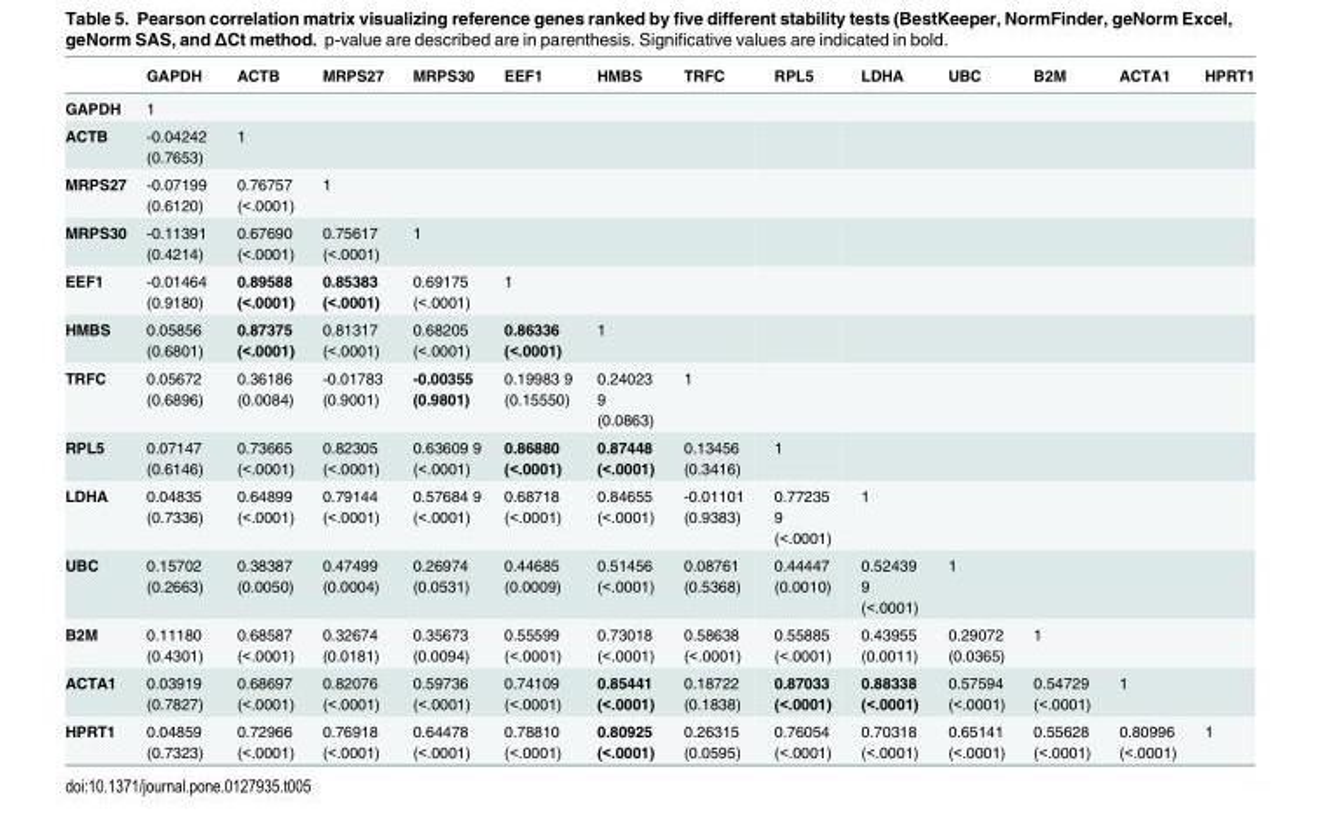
<table><thead><tr><td></td><td>GAPDH</td><td>ACTB</td><td>MRPS27</td><td>MRPS30</td><td>EEF1</td><td>HMBS</td><td>TRFC</td><td>RPL5</td><td>LDHA</td><td>UBC</td><td>B2M</td><td>ACTA1</td><td>HPRT1</td></tr></thead><tbody><tr><td>GAPDH</td><td>1</td><td></td><td></td><td></td><td></td><td></td><td></td><td></td><td></td><td></td><td></td><td></td><td></td></tr><tr><td>ACTB</td><td>-0.04242 (0.7653)</td><td>1</td><td></td><td></td><td></td><td></td><td></td><td></td><td></td><td></td><td></td><td></td><td></td></tr><tr><td>MRPS27</td><td>-0.07199 (0.6120)</td><td>0.76757 (&lt;.0001)</td><td>1</td><td></td><td></td><td></td><td></td><td></td><td></td><td></td><td></td><td></td><td></td></tr><tr><td>MRPS30</td><td>-0.11391 (0.4214)</td><td>0.67690 (&lt;.0001)</td><td>0.75617 (&lt;.0001)</td><td>1</td><td></td><td></td><td></td><td></td><td></td><td></td><td></td><td></td><td></td></tr><tr><td>EEF1</td><td>-0.01464 (0.9180)</td><td>0.89588 (&lt;.0001)</td><td>0.85383 (&lt;.0001)</td><td>0.69175 (&lt;.0001)</td><td>1</td><td></td><td></td><td></td><td></td><td></td><td></td><td></td><td></td></tr><tr><td>HMBS</td><td>0.05856 (0.6801)</td><td>0.87375 (&lt;.0001)</td><td>0.81317 (&lt;.0001)</td><td>0.68205 (&lt;.0001)</td><td>0.86336 (&lt;.0001)</td><td>1</td><td></td><td></td><td></td><td></td><td></td><td></td><td></td></tr><tr><td>TRFC</td><td>0.05672 (0.6896)</td><td>0.36186 (0.0084)</td><td>-0.01783 (0.9001)</td><td>-0.00355 (0.9801)</td><td>0.19983 9 (0.15550)</td><td>0.24023 9 (0.0863)</td><td>1</td><td></td><td></td><td></td><td></td><td></td><td></td></tr><tr><td>RPL5</td><td>0.07147 (0.6146)</td><td>0.73665 (&lt;.0001)</td><td>0.82305 (&lt;.0001)</td><td>0.63609 9 (&lt;.0001)</td><td>0.86880 (&lt;.0001)</td><td>0.87448 (&lt;.0001)</td><td>0.13456 (0.3416)</td><td>1</td><td></td><td></td><td></td><td></td><td></td></tr><tr><td>LDHA</td><td>0.04835 (0.7336)</td><td>0.64899 (&lt;.0001)</td><td>0.79144 (&lt;.0001)</td><td>0.57684 9 (&lt;.0001)</td><td>0.68718 (&lt;.0001)</td><td>0.84655 (&lt;.0001)</td><td>-0.01101 (0.9383)</td><td>0.77235 9 (&lt;.0001)</td><td>1</td><td></td><td></td><td></td><td></td></tr><tr><td>UBC</td><td>0.15702 (0.2663)</td><td>0.38387 (0.0050)</td><td>0.47499 (0.0004)</td><td>0.26974 (0.0531)</td><td>0.44685 (0.0009)</td><td>0.51456 (&lt;.0001)</td><td>0.08761 (0.5368)</td><td>0.44447 (0.0010)</td><td>0.52439 9 (&lt;.0001)</td><td>1</td><td></td><td></td><td></td></tr><tr><td>B2M</td><td>0.11180 (0.4301)</td><td>0.68587 (&lt;.0001)</td><td>0.32674 (0.0181)</td><td>0.35673 (0.0094)</td><td>0.55599 (&lt;.0001)</td><td>0.73018 (&lt;.0001)</td><td>0.58638 (&lt;.0001)</td><td>0.55885 (&lt;.0001)</td><td>0.43955 (0.0011)</td><td>0.29072 (0.0365)</td><td>1</td><td></td><td></td></tr><tr><td>ACTA1</td><td>0.03919 (0.7827)</td><td>0.68697 (&lt;.0001)</td><td>0.82076 (&lt;.0001)</td><td>0.59736 (&lt;.0001)</td><td>0.74109 (&lt;.0001)</td><td>0.85441 (&lt;.0001)</td><td>0.18722 (0.1838)</td><td>0.87033 (&lt;.0001)</td><td>0.88338 (&lt;.0001)</td><td>0.57594 (&lt;.0001)</td><td>0.54729 (&lt;.0001)</td><td>1</td><td></td></tr><tr><td>HPRT1</td><td>0.04859 (0.7323)</td><td>0.72966 (&lt;.0001)</td><td>0.76918 (&lt;.0001)</td><td>0.64478 (&lt;.0001)</td><td>0.78810 (&lt;.0001)</td><td>0.80925 (&lt;.0001)</td><td>0.26315 (0.0595)</td><td>0.76054 (&lt;.0001)</td><td>0.70318 (&lt;.0001)</td><td>0.65141 (&lt;.0001)</td><td>0.55628 (&lt;.0001)</td><td>0.80996 (&lt;.0001)</td><td>1</td></tr></tbody></table>